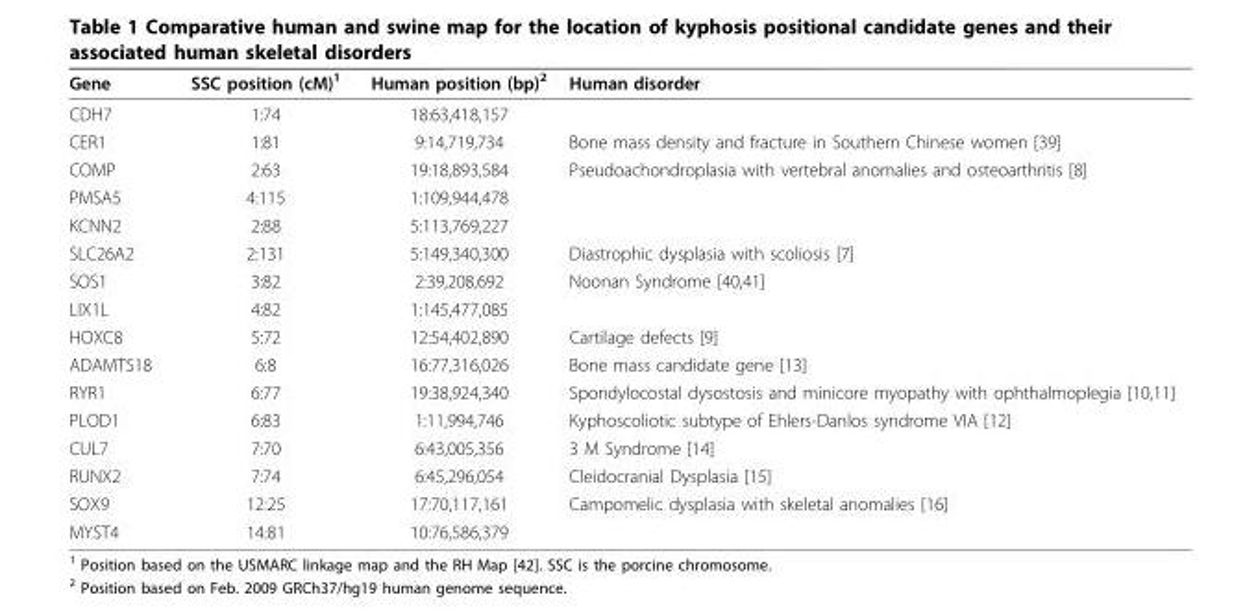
<table><thead><tr><td>Gene</td><td>SSC position (cM)<sup>1</sup></td><td>Human position (bp)<sup>2</sup></td><td>Human disorder</td></tr></thead><tbody><tr><td>CDH7</td><td>1:74</td><td>18:63,418,157</td><td></td></tr><tr><td>CER1</td><td>1:81</td><td>9:14,719,734</td><td>Bone mass density and fracture in Southern Chinese women [39]</td></tr><tr><td>COMP</td><td>2:63</td><td>19:18,893,584</td><td>Pseudoachondroplasia with vertebral anomalies and osteoarthritis [8]</td></tr><tr><td>PMSA5</td><td>4:115</td><td>1:109,944,478</td><td></td></tr><tr><td>KCNN2</td><td>2:88</td><td>5:113,769,227</td><td></td></tr><tr><td>SLC26A2</td><td>2:131</td><td>5:149,340,300</td><td>Diastrophic dysplasia with scoliosis [7]</td></tr><tr><td>SOS1</td><td>3:82</td><td>2:39,208,692</td><td>Noonan Syndrome [40,41]</td></tr><tr><td>LIX1L</td><td>4:82</td><td>1:145,477,085</td><td></td></tr><tr><td>HOXC8</td><td>5:72</td><td>12:54,402,890</td><td>Cartilage defects [9]</td></tr><tr><td>ADAMTS18</td><td>6:8</td><td>16:77,316,026</td><td>Bone mass candidate gene [13]</td></tr><tr><td>RYR1</td><td>6:77</td><td>19:38,924,340</td><td>Spondylocostal dysostosis and minicore myopathy with ophthalmoplegia [10,11]</td></tr><tr><td>PLOD1</td><td>6:83</td><td>1:11,994,746</td><td>Kyphoscoliotic subtype of Ehlers-Danlos syndrome VIA [12]</td></tr><tr><td>CUL7</td><td>7:70</td><td>6:43,005,356</td><td>3 M Syndrome [14]</td></tr><tr><td>RUNX2</td><td>7:74</td><td>6:45,296,054</td><td>Cleidocranial Dysplasia [15]</td></tr><tr><td>SOX9</td><td>12:25</td><td>17:70,117,161</td><td>Campomelic dysplasia with skeletal anomalies [16]</td></tr><tr><td>MYST4</td><td>14:81</td><td>10:76,586,379</td><td></td></tr></tbody></table>